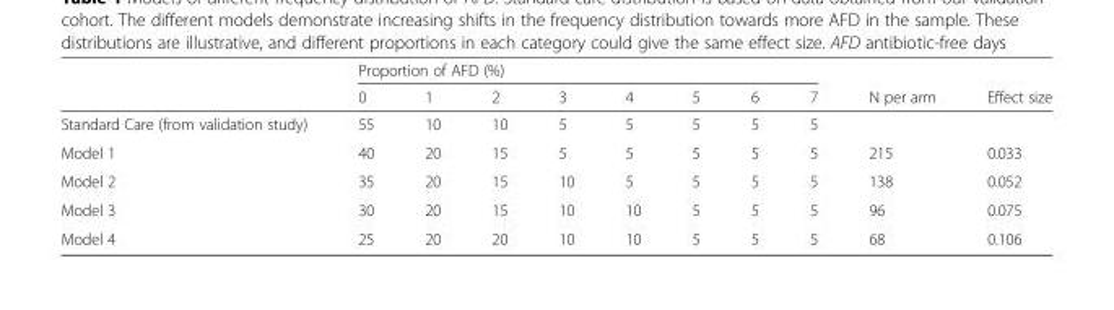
<table><thead><tr><td rowspan="2"></td><td colspan="8">Proportion of AFD (%)</td><td rowspan="2">N per arm</td><td rowspan="2">Effect size</td></tr><tr><td>0</td><td>1</td><td>2</td><td>3</td><td>4</td><td>5</td><td>6</td><td>7</td></tr></thead><tbody><tr><td>Standard Care (from validation study)</td><td>55</td><td>10</td><td>10</td><td>5</td><td>5</td><td>5</td><td>5</td><td>5</td><td></td><td></td></tr><tr><td>Model 1</td><td>40</td><td>20</td><td>15</td><td>5</td><td>5</td><td>5</td><td>5</td><td>5</td><td>215</td><td>0.033</td></tr><tr><td>Model 2</td><td>35</td><td>20</td><td>15</td><td>10</td><td>5</td><td>5</td><td>5</td><td>5</td><td>138</td><td>0.052</td></tr><tr><td>Model 3</td><td>30</td><td>20</td><td>15</td><td>10</td><td>10</td><td>5</td><td>5</td><td>5</td><td>96</td><td>0.075</td></tr><tr><td>Model 4</td><td>25</td><td>20</td><td>20</td><td>10</td><td>10</td><td>5</td><td>5</td><td>5</td><td>68</td><td>0.106</td></tr></tbody></table>